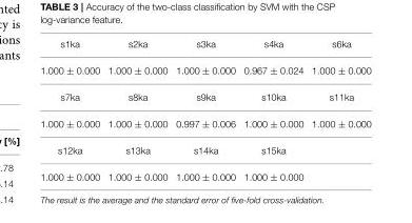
<table><thead><tr><td>s1ka</td><td>s2ka</td><td>s3ka</td><td>s4ka</td><td>s6ka</td></tr></thead><tbody><tr><td>1.000 ± 0.000</td><td>1.000 ± 0.000</td><td>1.000 ± 0.000</td><td>0.967 ± 0.024</td><td>1.000 ± 0.000</td></tr><tr><td>s7ka</td><td>s8ka</td><td>s9ka</td><td>s10ka</td><td>s11ka</td></tr><tr><td>1.000 ± 0.000</td><td>1.000 ± 0.000</td><td>0.997 ± 0.006</td><td>1.000 ± 0.000</td><td>1.000 ± 0.000</td></tr><tr><td>s12ka</td><td>s13ka</td><td>s14ka</td><td>s15ka</td><td></td></tr><tr><td>1.000 ± 0.000</td><td>1.000 ± 0.000</td><td>1.000 ± 0.000</td><td>1.000 ± 0.000</td><td></td></tr></tbody></table>